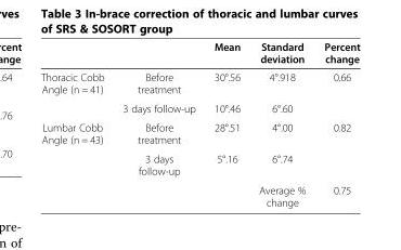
<table><thead><tr><td></td><td></td><td>Mean</td><td>Standard deviation</td><td>Percent change</td></tr></thead><tbody><tr><td rowspan="2">Thoracic Cobb Angle (n = 41)</td><td>Before treatment</td><td>30°.56</td><td>4°.918</td><td rowspan="2">0.66</td></tr><tr><td>3 days follow-up</td><td>10°.46</td><td>6°.60</td></tr><tr><td rowspan="2">Lumbar Cobb Angle (n = 43)</td><td>Before treatment</td><td>28°.51</td><td>4°.00</td><td rowspan="2">0.82</td></tr><tr><td>3 days follow-up</td><td>5°.16</td><td>6°.74</td></tr><tr><td colspan="3"></td><td>Average % change</td><td>0.75</td></tr></tbody></table>